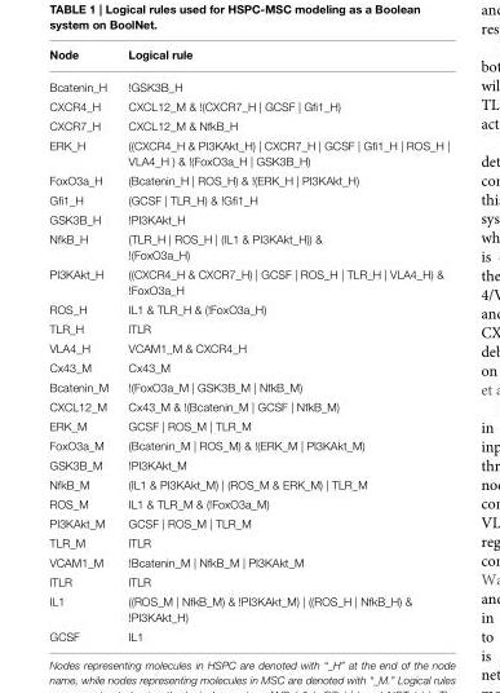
<table><thead><tr><td>Node</td><td>Logical rule</td></tr></thead><tbody><tr><td>Bcatenin_H</td><td>!GSK3B_H</td></tr><tr><td>CXCR4_H</td><td>CXCL12_M &amp; !(CXCR7_H | GCSF | Gfi1_H)</td></tr><tr><td>CXCR7_H</td><td>CXCL12_M &amp; NfkB_H</td></tr><tr><td>ERK_H</td><td>((CXCR4_H &amp; PI3KAkt_H) | CXCR7_H | GCSF | Gfi1_H | ROS_H | VLA4_H ) &amp; !(FoxO3a_H | GSK3B_H)</td></tr><tr><td>FoxO3a_H</td><td>(Bcatenin_H | ROS_H) &amp; !(ERK_H | PI3KAkt_H)</td></tr><tr><td>Gfi1_H</td><td>(GCSF | TLR_H) &amp; !Gfi1_H</td></tr><tr><td>GSK3B_H</td><td>!PI3KAkt_H</td></tr><tr><td>NfkB_H</td><td>(TLR_H | ROS_H | (IL1 &amp; PI3KAkt_H)) &amp; !(FoxO3a_H)</td></tr><tr><td>PI3KAkt_H</td><td>((CXCR4_H &amp; CXCR7_H) | GCSF | ROS_H | TLR_H | VLA4_H) &amp; !FoxO3a_H</td></tr><tr><td>ROS_H</td><td>IL1 &amp; TLR_H &amp; (!FoxO3a_H)</td></tr><tr><td>TLR_H</td><td>lTLR</td></tr><tr><td>VLA4_H</td><td>VCAM1_M &amp; CXCR4_H</td></tr><tr><td>Cx43_M</td><td>Cx43_M</td></tr><tr><td>Bcatenin_M</td><td>!(FoxO3a_M | GSK3B_M | NfkB_M)</td></tr><tr><td>CXCL12_M</td><td>Cx43_M &amp; !(Bcatenin_M | GCSF | NfkB_M)</td></tr><tr><td>ERK_M</td><td>GCSF | ROS_M | TLR_M</td></tr><tr><td>FoxO3a_M</td><td>(Bcatenin_M | ROS_M) &amp; !(ERK_M | PI3KAkt_M)</td></tr><tr><td>GSK3B_M</td><td>!PI3KAkt_M</td></tr><tr><td>NfkB_M</td><td>(IL1 &amp; PI3KAkt_M) | (ROS_M &amp; ERK_M) | TLR_M</td></tr><tr><td>ROS_M</td><td>IL1 &amp; TLR_M &amp; (!FoxO3a_M)</td></tr><tr><td>PI3KAkt_M</td><td>GCSF | ROS_M | TLR_M</td></tr><tr><td>TLR_M</td><td>lTLR</td></tr><tr><td>VCAM1_M</td><td>!Bcatenin_M | NfkB_M | PI3KAkt_M</td></tr><tr><td>lTLR</td><td>lTLR</td></tr><tr><td>IL1</td><td>((ROS_M | NfkB_M) &amp; !PI3KAkt_M) | ((ROS_H | NfkB_H) &amp; !PI3KAkt_H)</td></tr><tr><td>GCSF</td><td>IL1</td></tr></tbody></table>